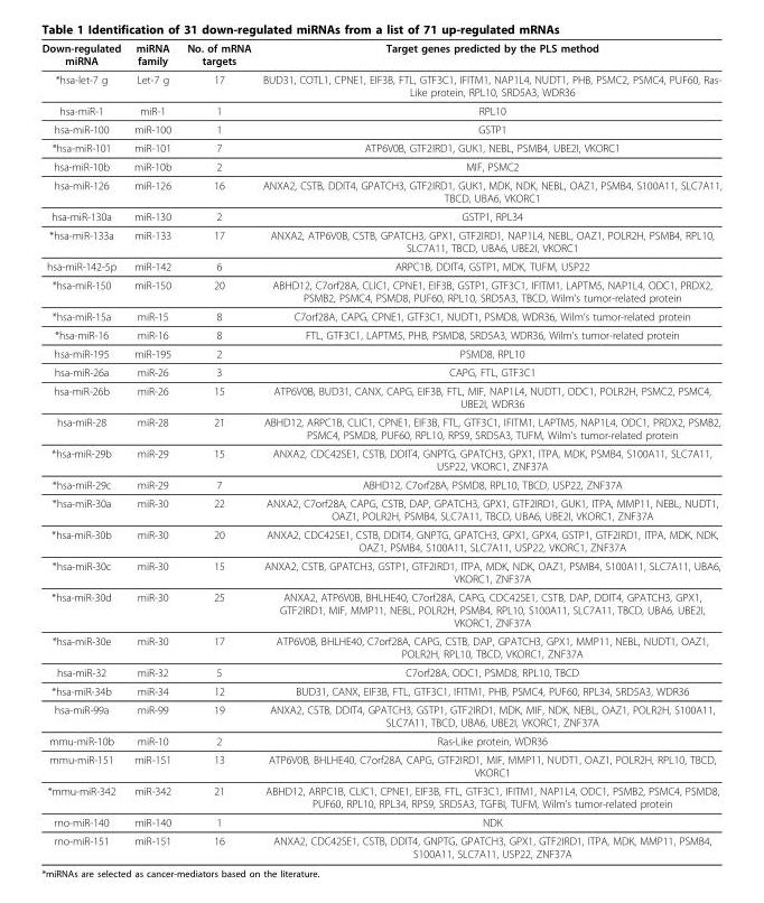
<table><thead><tr><td>Down-regulated miRNA</td><td>miRNA family</td><td>No. of mRNA targets</td><td>Target genes predicted by the PLS method</td></tr></thead><tbody><tr><td>*hsa-let-7 g</td><td>Let-7 g</td><td>17</td><td>BUD31, COTL1, CPNE1, EIF3B, FTL, GTF3C1, IFITM1, NAP1L4, NUDT1, PHB, PSMC2, PSMC4, PUF60, Ras- Like protein, RPL10, SRD5A3, WDR36</td></tr><tr><td>hsa-miR-1</td><td>miR-1</td><td>1</td><td>RPL10</td></tr><tr><td>hsa-miR-100</td><td>miR-100</td><td>1</td><td>GSTP1</td></tr><tr><td>*hsa-miR-101</td><td>miR-101</td><td>7</td><td>ATP6V0B, GTF2IRD1, GUK1, NEBL, PSMB4, UBE2I, VKORC1</td></tr><tr><td>hsa-miR-10b</td><td>miR-10b</td><td>2</td><td>MIF, PSMC2</td></tr><tr><td>hsa-miR-126</td><td>miR-126</td><td>16</td><td>ANXA2, CSTB, DDIT4, GPATCH3, GTF2IRD1, GUK1, MDK, NDK, NEBL, OAZ1, PSMB4, S100A11, SLC7A11, TBCD, UBA6, VKORC1</td></tr><tr><td>hsa-miR-130a</td><td>miR-130</td><td>2</td><td>GSTP1, RPL34</td></tr><tr><td>*hsa-miR-133a</td><td>miR-133</td><td>17</td><td>ANXA2, ATP6V0B, CSTB, GPATCH3, GPX1, GTF2IRD1, NAP1L4, NEBL, OAZ1, POLR2H, PSMB4, RPL10, SLC7A11, TBCD, UBA6, UBE2I, VKORC1</td></tr><tr><td>hsa-miR-142-5p</td><td>miR-142</td><td>6</td><td>ARPC1B, DDIT4, GSTP1, MDK, TUFM, USP22</td></tr><tr><td>*hsa-miR-150</td><td>miR-150</td><td>20</td><td>ABHD12, C7orf28A, CLIC1, CPNE1, EIF3B, GSTP1, GTF3C1, IFITM1, LAPTM5, NAP1L4, ODC1, PRDX2, PSMB2, PSMC4, PSMD8, PUF60, RPL10, SRD5A3, TBCD, Wilm’s tumor-related protein</td></tr><tr><td>*hsa-miR-15a</td><td>miR-15</td><td>8</td><td>C7orf28A, CAPG, CPNE1, GTF3C1, NUDT1, PSMD8, WDR36, Wilm’s tumor-related protein</td></tr><tr><td>*hsa-miR-16</td><td>miR-16</td><td>8</td><td>FTL, GTF3C1, LAPTM5, PHB, PSMD8, SRD5A3, WDR36, Wilm’s tumor-related protein</td></tr><tr><td>hsa-miR-195</td><td>miR-195</td><td>2</td><td>PSMD8, RPL10</td></tr><tr><td>hsa-miR-26a</td><td>miR-26</td><td>3</td><td>CAPG, FTL, GTF3C1</td></tr><tr><td>hsa-miR-26b</td><td>miR-26</td><td>15</td><td>ATP6V0B, BUD31, CANX, CAPG, EIF3B, FTL, MIF, NAP1L4, NUDT1, ODC1, POLR2H, PSMC2, PSMC4, UBE2I, WDR36</td></tr><tr><td>hsa-miR-28</td><td>miR-28</td><td>21</td><td>ABHD12, ARPC1B, CLIC1, CPNE1, EIF3B, FTL, GTF3C1, IFITM1, LAPTM5, NAP1L4, ODC1, PRDX2, PSMB2, PSMC4, PSMD8, PUF60, RPL10, RPS9, SRD5A3, TUFM, Wilm’s tumor-related protein</td></tr><tr><td>*hsa-miR-29b</td><td>miR-29</td><td>15</td><td>ANXA2, CDC42SE1, CSTB, DDIT4, GNPTG, GPATCH3, GPX1, ITPA, MDK, PSMB4, S100A11, SLC7A11, USP22, VKORC1, ZNF37A</td></tr><tr><td>*hsa-miR-29c</td><td>miR-29</td><td>7</td><td>ABHD12, C7orf28A, PSMD8, RPL10, TBCD, USP22, ZNF37A</td></tr><tr><td>*hsa-miR-30a</td><td>miR-30</td><td>22</td><td>ANXA2, C7orf28A, CAPG, CSTB, DAP, GPATCH3, GPX1, GTF2IRD1, GUK1, ITPA, MMP11, NEBL, NUDT1, OAZ1, POLR2H, PSMB4, SLC7A11, TBCD, UBA6, UBE2I, VKORC1, ZNF37A</td></tr><tr><td>*hsa-miR-30b</td><td>miR-30</td><td>20</td><td>ANXA2, CDC42SE1, CSTB, DDIT4, GNPTG, GPATCH3, GPX1, GPX4, GSTP1, GTF2IRD1, ITPA, MDK, NDK, OAZ1, PSMB4, S100A11, SLC7A11, USP22, VKORC1, ZNF37A</td></tr><tr><td>*hsa-miR-30c</td><td>miR-30</td><td>15</td><td>ANXA2, CSTB, GPATCH3, GSTP1, GTF2IRD1, ITPA, MDK, NDK, OAZ1, PSMB4, S100A11, SLC7A11, UBA6, VKORC1, ZNF37A</td></tr><tr><td>*hsa-miR-30d</td><td>miR-30</td><td>25</td><td>ANXA2, ATP6V0B, BHLHE40, C7orf28A, CAPG, CDC42SE1, CSTB, DAP, DDIT4, GPATCH3, GPX1, GTF2IRD1, MIF, MMP11, NEBL, POLR2H, PSMB4, RPL10, S100A11, SLC7A11, TBCD, UBA6, UBE2I, VKORC1, ZNF37A</td></tr><tr><td>*hsa-miR-30e</td><td>miR-30</td><td>17</td><td>ATP6V0B, BHLHE40, C7orf28A, CAPG, CSTB, DAP, GPATCH3, GPX1, MMP11, NEBL, NUDT1, OAZ1, POLR2H, RPL10, TBCD, VKORC1, ZNF37A</td></tr><tr><td>hsa-miR-32</td><td>miR-32</td><td>5</td><td>C7orf28A, ODC1, PSMD8, RPL10, TBCD</td></tr><tr><td>*hsa-miR-34b</td><td>miR-34</td><td>12</td><td>BUD31, CANX, EIF3B, FTL, GTF3C1, IFITM1, PHB, PSMC4, PUF60, RPL34, SRD5A3, WDR36</td></tr><tr><td>hsa-miR-99a</td><td>miR-99</td><td>19</td><td>ANXA2, CSTB, DDIT4, GPATCH3, GSTP1, GTF2IRD1, MDK, MIF, NDK, NEBL, OAZ1, POLR2H, S100A11, SLC7A11, TBCD, UBA6, UBE2I, VKORC1, ZNF37A</td></tr><tr><td>mmu-miR-10b</td><td>miR-10</td><td>2</td><td>Ras-Like protein, WDR36</td></tr><tr><td>mmu-miR-151</td><td>miR-151</td><td>13</td><td>ATP6V0B, BHLHE40, C7orf28A, CAPG, GTF2IRD1, MIF, MMP11, NUDT1, OAZ1, POLR2H, RPL10, TBCD, VKORC1</td></tr><tr><td>*mmu-miR-342</td><td>miR-342</td><td>21</td><td>ABHD12, ARPC1B, CLIC1, CPNE1, EIF3B, FTL, GTF3C1, IFITM1, NAP1L4, ODC1, PSMB2, PSMC4, PSMD8, PUF60, RPL10, RPL34, RPS9, SRD5A3, TGFBI, TUFM, Wilm’s tumor-related protein</td></tr><tr><td>rno-miR-140</td><td>miR-140</td><td>1</td><td>NDK</td></tr><tr><td>rno-miR-151</td><td>miR-151</td><td>16</td><td>ANXA2, CDC42SE1, CSTB, DDIT4, GNPTG, GPATCH3, GPX1, GTF2IRD1, ITPA, MDK, MMP11, PSMB4, S100A11, SLC7A11, USP22, ZNF37A</td></tr></tbody></table>